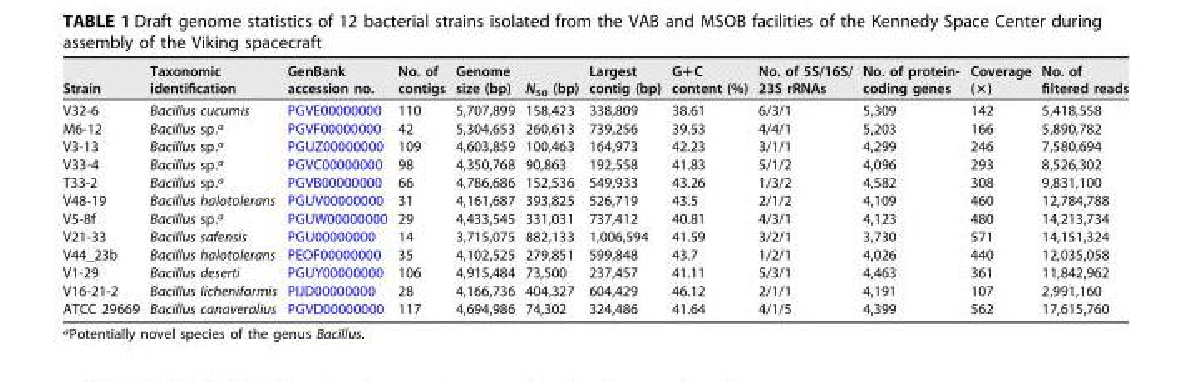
<table><thead><tr><td>Strain</td><td>Taxonomic identification</td><td>GenBank accession no.</td><td>No. of contigs</td><td>Genome size (bp)</td><td>N<sub>50</sub> (bp)</td><td>Largest contig (bp)</td><td>G+C content (%)</td><td>No. of 5S/16S/ 23S rRNAs</td><td>No. of protein- coding genes</td><td>Coverage (×)</td><td>No. of filtered reads</td></tr></thead><tbody><tr><td>V32-6</td><td>Bacillus cucumis</td><td>PGVE00000000</td><td>110</td><td>5,707,899</td><td>158,423</td><td>338,809</td><td>38.61</td><td>6/3/1</td><td>5,309</td><td>142</td><td>5,418,558</td></tr><tr><td>M6-12</td><td>Bacillus sp.<sup>a</sup></td><td>PGVF00000000</td><td>42</td><td>5,304,653</td><td>260,613</td><td>739,256</td><td>39.53</td><td>4/4/1</td><td>5,203</td><td>166</td><td>5,890,782</td></tr><tr><td>V3-13</td><td>Bacillus sp.<sup>a</sup></td><td>PGUZ00000000</td><td>109</td><td>4,603,859</td><td>100,463</td><td>164,973</td><td>42.23</td><td>3/1/1</td><td>4,299</td><td>246</td><td>7,580,694</td></tr><tr><td>V33-4</td><td>Bacillus sp.<sup>a</sup></td><td>PGVC00000000</td><td>98</td><td>4,350,768</td><td>90,863</td><td>192,558</td><td>41.83</td><td>5/1/2</td><td>4,096</td><td>293</td><td>8,526,302</td></tr><tr><td>T33-2</td><td>Bacillus sp.<sup>a</sup></td><td>PGVB00000000</td><td>66</td><td>4,786,686</td><td>152,536</td><td>549,933</td><td>43.26</td><td>1/3/2</td><td>4,582</td><td>308</td><td>9,831,100</td></tr><tr><td>V48-19</td><td>Bacillus halotolerans</td><td>PGUV00000000</td><td>31</td><td>4,161,687</td><td>393,825</td><td>526,719</td><td>43.5</td><td>2/1/2</td><td>4,109</td><td>460</td><td>12,784,788</td></tr><tr><td>V5-8f</td><td>Bacillus sp.<sup>a</sup></td><td>PGUW00000000</td><td>29</td><td>4,433,545</td><td>331,031</td><td>737,412</td><td>40.81</td><td>4/3/1</td><td>4,123</td><td>480</td><td>14,213,734</td></tr><tr><td>V21-33</td><td>Bacillus safensis</td><td>PGU00000000</td><td>14</td><td>3,715,075</td><td>882,133</td><td>1,006,594</td><td>41.59</td><td>3/2/1</td><td>3,730</td><td>571</td><td>14,151,324</td></tr><tr><td>V44_23b</td><td>Bacillus halotolerans</td><td>PEOF00000000</td><td>35</td><td>4,102,525</td><td>279,851</td><td>599,848</td><td>43.7</td><td>1/2/1</td><td>4,026</td><td>440</td><td>12,035,058</td></tr><tr><td>V1-29</td><td>Bacillus deserti</td><td>PGUY00000000</td><td>106</td><td>4,915,484</td><td>73,500</td><td>237,457</td><td>41.11</td><td>5/3/1</td><td>4,463</td><td>361</td><td>11,842,962</td></tr><tr><td>V16-21-2</td><td>Bacillus licheniformis</td><td>PIJD00000000</td><td>28</td><td>4,166,736</td><td>404,327</td><td>604,429</td><td>46.12</td><td>2/1/1</td><td>4,191</td><td>107</td><td>2,991,160</td></tr><tr><td>ATCC 29669</td><td>Bacillus canaveralius</td><td>PGVD00000000</td><td>117</td><td>4,694,986</td><td>74,302</td><td>324,486</td><td>41.64</td><td>4/1/5</td><td>4,399</td><td>562</td><td>17,615,760</td></tr></tbody></table>